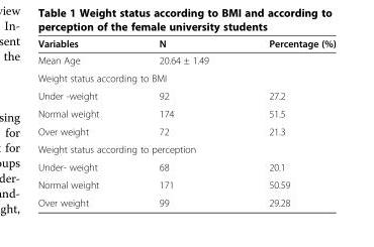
<table><thead><tr><td>Variables</td><td>N</td><td>Percentage (%)</td></tr></thead><tbody><tr><td>Mean Age</td><td>20.64 ± 1.49</td><td></td></tr><tr><td colspan="3">Weight status according to BMI</td></tr><tr><td>Under -weight</td><td>92</td><td>27.2</td></tr><tr><td>Normal weight</td><td>174</td><td>51.5</td></tr><tr><td>Over weight</td><td>72</td><td>21.3</td></tr><tr><td colspan="3">Weight status according to perception</td></tr><tr><td>Under- weight</td><td>68</td><td>20.1</td></tr><tr><td>Normal weight</td><td>171</td><td>50.59</td></tr><tr><td>Over weight</td><td>99</td><td>29.28</td></tr></tbody></table>